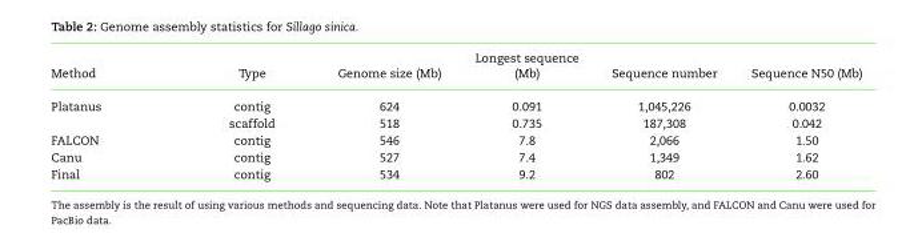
<table><thead><tr><td>Method</td><td>Type</td><td>Genome size (Mb)</td><td>Longest sequence (Mb)</td><td>Sequence number</td><td>Sequence N50 (Mb)</td></tr></thead><tbody><tr><td rowspan="2">Platanus</td><td>contig</td><td>624</td><td>0.091</td><td>1,045,226</td><td>0.0032</td></tr><tr><td>scaffold</td><td>518</td><td>0.735</td><td>187,308</td><td>0.042</td></tr><tr><td>FALCON</td><td>contig</td><td>546</td><td>7.8</td><td>2,066</td><td>1.50</td></tr><tr><td>Canu</td><td>contig</td><td>527</td><td>7.4</td><td>1,349</td><td>1.62</td></tr><tr><td>Final</td><td>contig</td><td>534</td><td>9.2</td><td>802</td><td>2.60</td></tr></tbody></table>